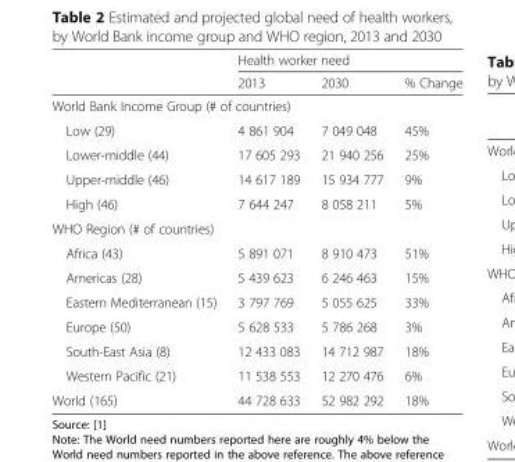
<table><thead><tr><td rowspan="2"></td><td colspan="3">Health worker need</td></tr><tr><td>2013</td><td>2030</td><td>% Change</td></tr></thead><tbody><tr><td colspan="4">World Bank Income Group (# of countries)</td></tr><tr><td>Low (29)</td><td>4 861 904</td><td>7 049 048</td><td>45%</td></tr><tr><td>Lower-middle (44)</td><td>17 605 293</td><td>21 940 256</td><td>25%</td></tr><tr><td>Upper-middle (46)</td><td>14 617 189</td><td>15 934 777</td><td>9%</td></tr><tr><td>High (46)</td><td>7 644 247</td><td>8 058 211</td><td>5%</td></tr><tr><td colspan="4">WHO Region (# of countries)</td></tr><tr><td>Africa (43)</td><td>5 891 071</td><td>8 910 473</td><td>51%</td></tr><tr><td>Americas (28)</td><td>5 439 623</td><td>6 246 463</td><td>15%</td></tr><tr><td>Eastern Mediterranean (15)</td><td>3 797 769</td><td>5 055 625</td><td>33%</td></tr><tr><td>Europe (50)</td><td>5 628 533</td><td>5 786 268</td><td>3%</td></tr><tr><td>South-East Asia (8)</td><td>12 433 083</td><td>14 712 987</td><td>18%</td></tr><tr><td>Western Pacific (21)</td><td>11 538 553</td><td>12 270 476</td><td>6%</td></tr><tr><td>World (165)</td><td>44 728 633</td><td>52 982 292</td><td>18%</td></tr></tbody></table>